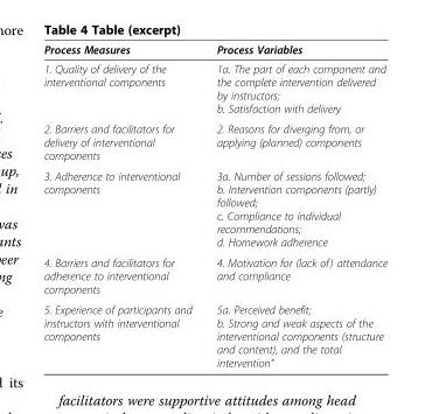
<table><thead><tr><td>Process Measures</td><td>Process Variables</td></tr></thead><tbody><tr><td>1. Quality of delivery of the interventional components</td><td>1a. The part of each component and the complete intervention delivered by instructors; b. Satisfaction with delivery</td></tr><tr><td>2. Barriers and facilitators for delivery of interventional components</td><td>2. Reasons for diverging from, or applying (planned) components</td></tr><tr><td>3. Adherence to interventional components</td><td>3a. Number of sessions followed; b. Intervention components (partly) followed; c. Compliance to individual recommendations; d. Homework adherence</td></tr><tr><td>4. Barriers and facilitators for adherence to interventional components</td><td>4. Motivation for (lack of) attendance and compliance</td></tr><tr><td>5. Experience of participants and instructors with interventional components</td><td>5a. Perceived benefit; b. Strong and weak aspects of the interventional components (structure and content), and the total intervention”</td></tr></tbody></table>